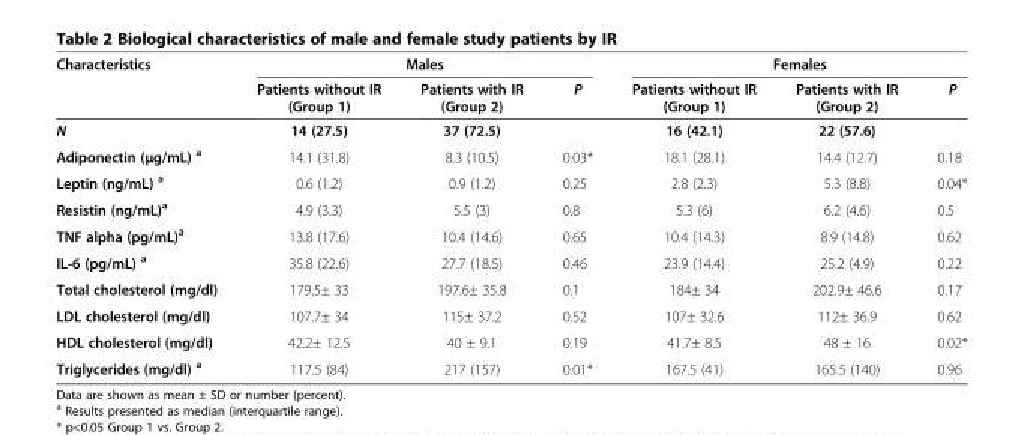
<table><thead><tr><td rowspan="2">Characteristics</td><td colspan="3">Males</td><td colspan="3">Females</td></tr><tr><td>Patients without IR (Group 1)</td><td>Patients with IR (Group 2)</td><td>P</td><td>Patients without IR (Group 1)</td><td>Patients with IR (Group 2)</td><td>P</td></tr></thead><tbody><tr><td>N</td><td>14 (27.5)</td><td>37 (72.5)</td><td></td><td>16 (42.1)</td><td>22 (57.6)</td><td></td></tr><tr><td>Adiponectin (μg/mL) <sup>a</sup></td><td>14.1 (31.8)</td><td>8.3 (10.5)</td><td>0.03*</td><td>18.1 (28.1)</td><td>14.4 (12.7)</td><td>0.18</td></tr><tr><td>Leptin (ng/mL) <sup>a</sup></td><td>0.6 (1.2)</td><td>0.9 (1.2)</td><td>0.25</td><td>2.8 (2.3)</td><td>5.3 (8.8)</td><td>0.04*</td></tr><tr><td>Resistin (ng/mL)<sup>a</sup></td><td>4.9 (3.3)</td><td>5.5 (3)</td><td>0.8</td><td>5.3 (6)</td><td>6.2 (4.6)</td><td>0.5</td></tr><tr><td>TNF alpha (pg/mL)<sup>a</sup></td><td>13.8 (17.6)</td><td>10.4 (14.6)</td><td>0.65</td><td>10.4 (14.3)</td><td>8.9 (14.8)</td><td>0.62</td></tr><tr><td>IL-6 (pg/mL) <sup>a</sup></td><td>35.8 (22.6)</td><td>27.7 (18.5)</td><td>0.46</td><td>23.9 (14.4)</td><td>25.2 (4.9)</td><td>0.22</td></tr><tr><td>Total cholesterol (mg/dl)</td><td>179.5± 33</td><td>197.6± 35.8</td><td>0.1</td><td>184± 34</td><td>202.9± 46.6</td><td>0.17</td></tr><tr><td>LDL cholesterol (mg/dl)</td><td>107.7± 34</td><td>115± 37.2</td><td>0.52</td><td>107± 32.6</td><td>112± 36.9</td><td>0.62</td></tr><tr><td>HDL cholesterol (mg/dl)</td><td>42.2± 12.5</td><td>40 ± 9.1</td><td>0.19</td><td>41.7± 8.5</td><td>48 ± 16</td><td>0.02*</td></tr><tr><td>Triglycerides (mg/dl) <sup>a</sup></td><td>117.5 (84)</td><td>217 (157)</td><td>0.01*</td><td>167.5 (41)</td><td>165.5 (140)</td><td>0.96</td></tr></tbody></table>